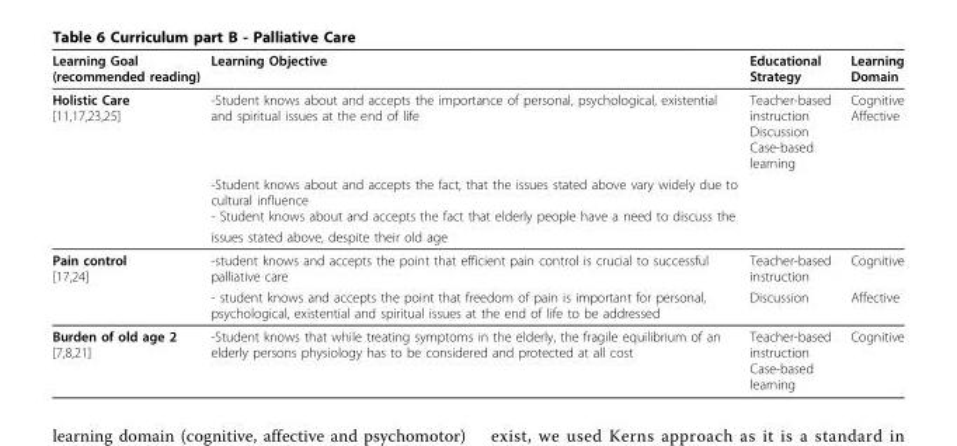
<table><thead><tr><td>Learning Goal (recommended reading)</td><td>Learning Objective</td><td>Educational Strategy</td><td>Learning Domain</td></tr></thead><tbody><tr><td rowspan="3">Holistic Care [11,17,23,25]</td><td>-Student knows about and accepts the importance of personal, psychological, existential and spiritual issues at the end of life</td><td>Teacher-based instruction Discussion Case-based learning</td><td>Cognitive Affective</td></tr><tr><td>-Student knows about and accepts the fact, that the issues stated above vary widely due to cultural influence - Student knows about and accepts the fact that elderly people have a need to discuss the</td><td></td><td></td></tr><tr><td>issues stated above, despite their old age</td><td></td><td></td></tr><tr><td rowspan="2">Pain control [17,24]</td><td>-student knows and accepts the point that efficient pain control is crucial to successful palliative care</td><td>Teacher-based instruction</td><td>Cognitive</td></tr><tr><td>- student knows and accepts the point that freedom of pain is important for personal, psychological, existential and spiritual issues at the end of life to be addressed</td><td>Discussion</td><td>Affective</td></tr><tr><td>Burden of old age 2 [7,8,21]</td><td>-Student knows that while treating symptoms in the elderly, the fragile equilibrium of an elderly persons physiology has to be considered and protected at all cost</td><td>Teacher-based instruction Case-based learning</td><td>Cognitive</td></tr></tbody></table>